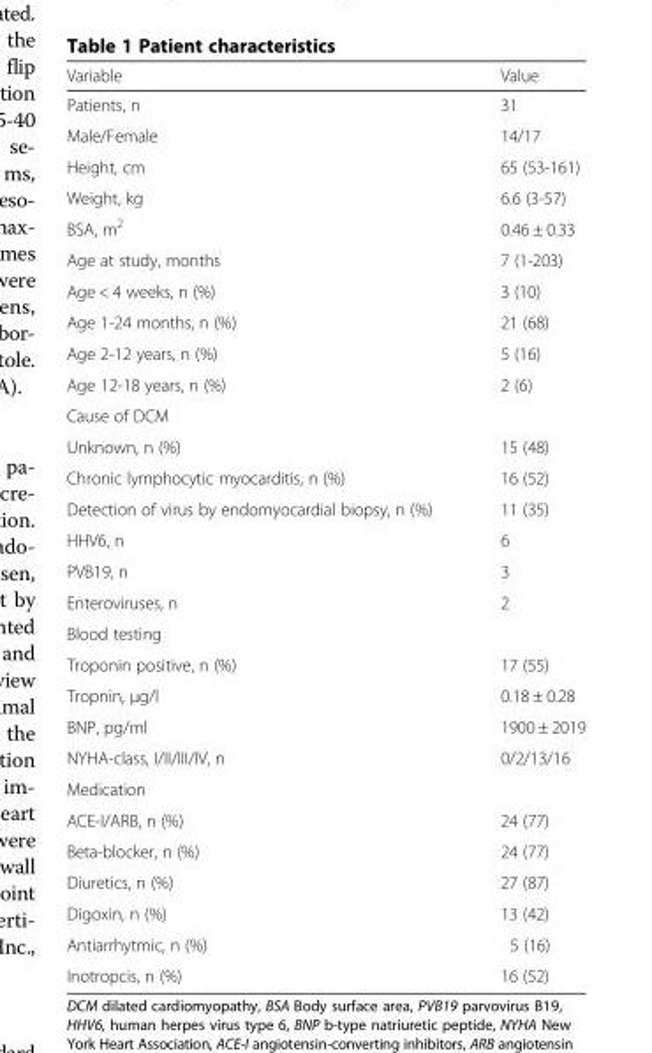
<table><thead><tr><td>Variable</td><td>Value</td></tr></thead><tbody><tr><td>Patients, n</td><td>31</td></tr><tr><td>Male/Female</td><td>14/17</td></tr><tr><td>Height, cm</td><td>65 (53-161)</td></tr><tr><td>Weight, kg</td><td>6.6 (3-57)</td></tr><tr><td>BSA, m<sup>2</sup></td><td>0.46 ± 0.33</td></tr><tr><td>Age at study, months</td><td>7 (1-203)</td></tr><tr><td>Age &lt; 4 weeks, n (%)</td><td>3 (10)</td></tr><tr><td>Age 1-24 months, n (%)</td><td>21 (68)</td></tr><tr><td>Age 2-12 years, n (%)</td><td>5 (16)</td></tr><tr><td>Age 12-18 years, n (%)</td><td>2 (6)</td></tr><tr><td colspan="2">Cause of DCM</td></tr><tr><td>Unknown, n (%)</td><td>15 (48)</td></tr><tr><td>Chronic lymphocytic myocarditis, n (%)</td><td>16 (52)</td></tr><tr><td>Detection of virus by endomyocardial biopsy, n (%)</td><td>11 (35)</td></tr><tr><td>HHV6, n</td><td>6</td></tr><tr><td>PVB19, n</td><td>3</td></tr><tr><td>Enteroviruses, n</td><td>2</td></tr><tr><td colspan="2">Blood testing</td></tr><tr><td>Troponin positive, n (%)</td><td>17 (55)</td></tr><tr><td>Tropnin, μg/l</td><td>0.18 ± 0.28</td></tr><tr><td>BNP, pg/ml</td><td>1900 ± 2019</td></tr><tr><td>NYHA-class, I/II/III/IV, n</td><td>0/2/13/16</td></tr><tr><td colspan="2">Medication</td></tr><tr><td>ACE-I/ARB, n (%)</td><td>24 (77)</td></tr><tr><td>Beta-blocker, n (%)</td><td>24 (77)</td></tr><tr><td>Diuretics, n (%)</td><td>27 (87)</td></tr><tr><td>Digoxin, n (%)</td><td>13 (42)</td></tr><tr><td>Antiarrhytmic, n (%)</td><td>5 (16)</td></tr><tr><td>Inotropcis, n (%)</td><td>16 (52)</td></tr></tbody></table>